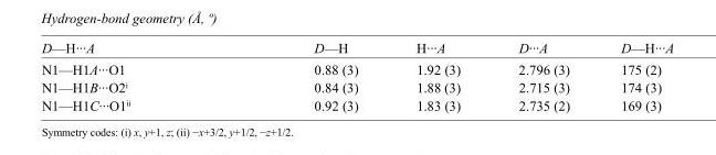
<table><tbody><tr><td>D—H···A</td><td>D—H</td><td>H···A</td><td>D···A</td><td>D—H···A</td></tr><tr><td>N1—H1A···O1</td><td>0.88 (3)</td><td>1.92 (3)</td><td>2.796 (3)</td><td>175 (2)</td></tr><tr><td>N1—H1B···O2<sup>i</sup></td><td>0.84 (3)</td><td>1.88 (3)</td><td>2.715 (3)</td><td>174 (3)</td></tr><tr><td>N1—H1C···O1<sup>ii</sup></td><td>0.92 (3)</td><td>1.83 (3)</td><td>2.735 (2)</td><td>169 (3)</td></tr></tbody></table>